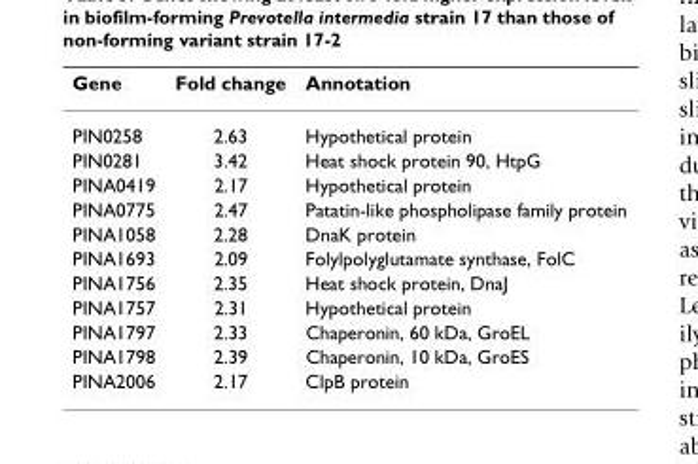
<table><thead><tr><td>Gene</td><td>Fold change</td><td>Annotation</td></tr></thead><tbody><tr><td>PIN0258</td><td>2.63</td><td>Hypothetical protein</td></tr><tr><td>PIN0281</td><td>3.42</td><td>Heat shock protein 90, HtpG</td></tr><tr><td>PINA0419</td><td>2.17</td><td>Hypothetical protein</td></tr><tr><td>PINA0775</td><td>2.47</td><td>Patatin-like phospholipase family protein</td></tr><tr><td>PINA1058</td><td>2.28</td><td>DnaK protein</td></tr><tr><td>PINA1693</td><td>2.09</td><td>Folylpolyglutamate synthase, FolC</td></tr><tr><td>PINA1756</td><td>2.35</td><td>Heat shock protein, DnaJ</td></tr><tr><td>PINA1757</td><td>2.31</td><td>Hypothetical protein</td></tr><tr><td>PINA1797</td><td>2.33</td><td>Chaperonin, 60 kDa, GroEL</td></tr><tr><td>PINA1798</td><td>2.39</td><td>Chaperonin, 10 kDa, GroES</td></tr><tr><td>PINA2006</td><td>2.17</td><td>ClpB protein</td></tr></tbody></table>